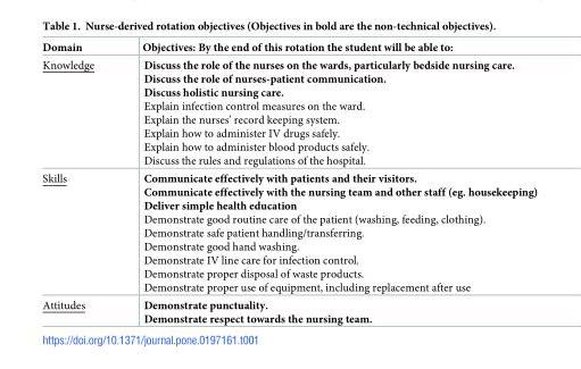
<table><thead><tr><td>Domain</td><td>Objectives: By the end of this rotation the student will be able to:</td></tr></thead><tbody><tr><td>Knowledge</td><td>Discuss the role of the nurses on the wards, particularly bedside nursing care. Discuss the role of nurses-patient communication. Discuss holistic nursing care. Explain infection control measures on the ward. Explain the nurses’ record keeping system. Explain how to administer IV drugs safely. Explain how to administer blood products safely. Discuss the rules and regulations of the hospital.</td></tr><tr><td>Skills</td><td>Communicate effectively with patients and their visitors. Communicate effectively with the nursing team and other staff (eg. housekeeping) Deliver simple health education Demonstrate good routine care of the patient (washing, feeding, clothing). Demonstrate safe patient handling/transferring. Demonstrate good hand washing. Demonstrate IV line care for infection control. Demonstrate proper disposal of waste products. Demonstrate proper use of equipment, including replacement after use</td></tr><tr><td>Attitudes</td><td>Demonstrate punctuality. Demonstrate respect towards the nursing team.</td></tr></tbody></table>